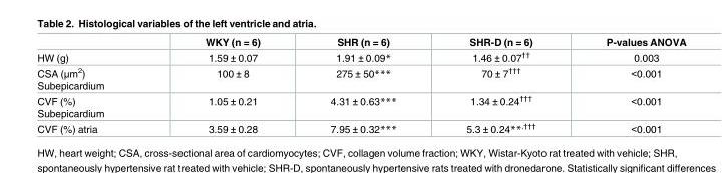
<table><thead><tr><td></td><td>WKY (n = 6)</td><td>SHR (n = 6)</td><td>SHR-D (n = 6)</td><td>P-values ANOVA</td></tr></thead><tbody><tr><td>HW (g)</td><td>1.59 ± 0.07</td><td>1.91 ± 0.09*</td><td>1.46 ± 0.07<sup>††</sup></td><td>0.003</td></tr><tr><td>CSA (μm<sup>2</sup>) Subepicardium</td><td>100 ± 8</td><td>275 ± 50***</td><td>70 ± 7<sup>†††</sup></td><td>&lt;0.001</td></tr><tr><td>CVF (%) Subepicardium</td><td>1.05 ± 0.21</td><td>4.31 ± 0.63***</td><td>1.34 ± 0.24<sup>†††</sup></td><td>&lt;0.001</td></tr><tr><td>CVF (%) atria</td><td>3.59 ± 0.28</td><td>7.95 ± 0.32***</td><td>5.3 ± 0.24**<sup>,†††</sup></td><td>&lt;0.001</td></tr></tbody></table>